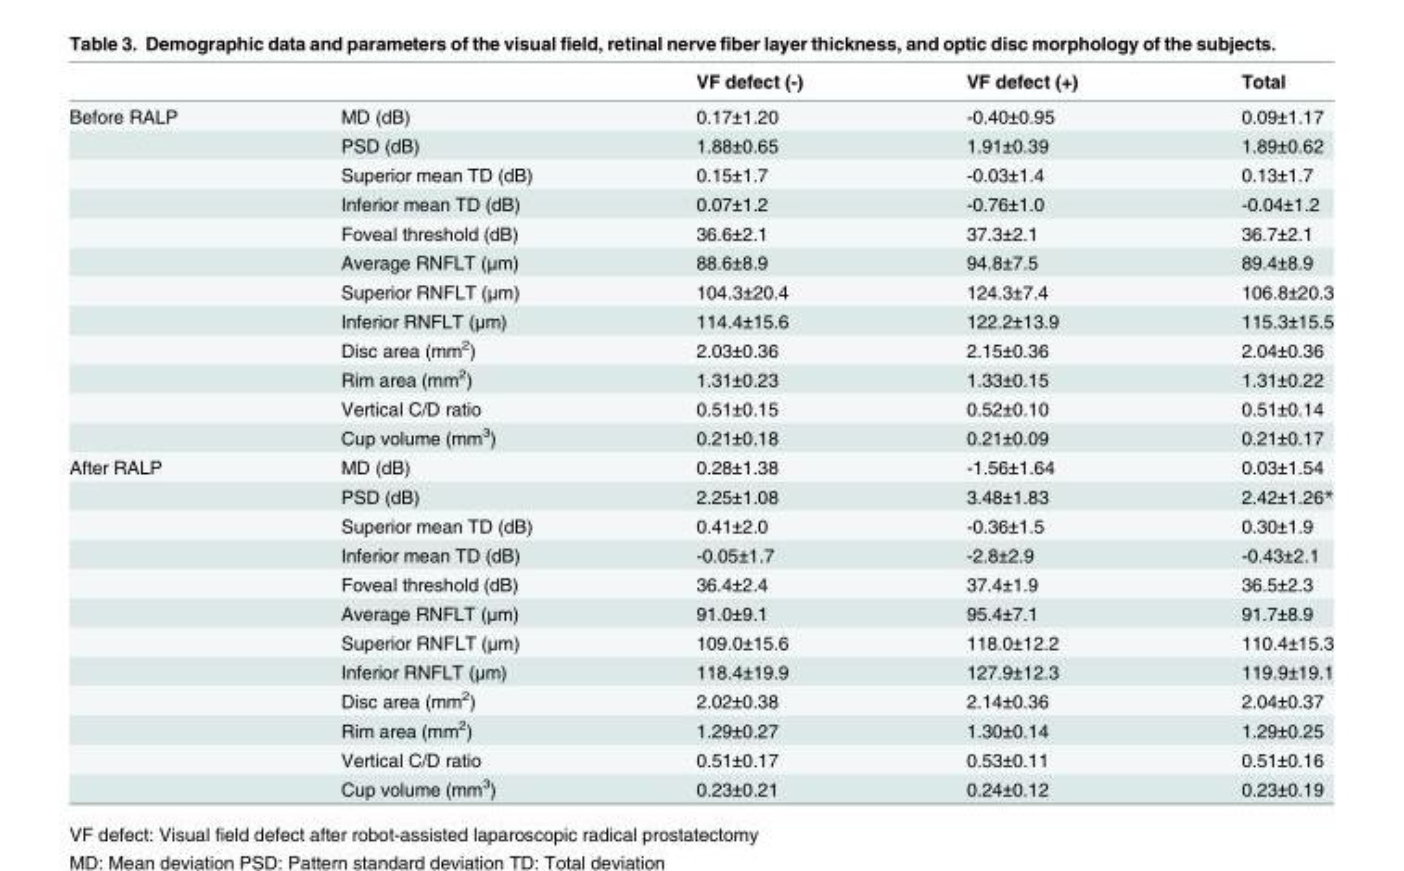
<table><thead><tr><td></td><td></td><td>VF defect (-)</td><td>VF defect (+)</td><td>Total</td></tr></thead><tbody><tr><td rowspan="12">Before RALP</td><td>MD (dB)</td><td>0.17±1.20</td><td>-0.40±0.95</td><td>0.09±1.17</td></tr><tr><td>PSD (dB)</td><td>1.88±0.65</td><td>1.91±0.39</td><td>1.89±0.62</td></tr><tr><td>Superior mean TD (dB)</td><td>0.15±1.7</td><td>-0.03±1.4</td><td>0.13±1.7</td></tr><tr><td>Inferior mean TD (dB)</td><td>0.07±1.2</td><td>-0.76±1.0</td><td>-0.04±1.2</td></tr><tr><td>Foveal threshold (dB)</td><td>36.6±2.1</td><td>37.3±2.1</td><td>36.7±2.1</td></tr><tr><td>Average RNFLT (μm)</td><td>88.6±8.9</td><td>94.8±7.5</td><td>89.4±8.9</td></tr><tr><td>Superior RNFLT (μm)</td><td>104.3±20.4</td><td>124.3±7.4</td><td>106.8±20.3</td></tr><tr><td>Inferior RNFLT (μm)</td><td>114.4±15.6</td><td>122.2±13.9</td><td>115.3±15.5</td></tr><tr><td>Disc area (mm<sup>2</sup>)</td><td>2.03±0.36</td><td>2.15±0.36</td><td>2.04±0.36</td></tr><tr><td>Rim area (mm<sup>2</sup>)</td><td>1.31±0.23</td><td>1.33±0.15</td><td>1.31±0.22</td></tr><tr><td>Vertical C/D ratio</td><td>0.51±0.15</td><td>0.52±0.10</td><td>0.51±0.14</td></tr><tr><td>Cup volume (mm<sup>3</sup>)</td><td>0.21±0.18</td><td>0.21±0.09</td><td>0.21±0.17</td></tr><tr><td rowspan="12">After RALP</td><td>MD (dB)</td><td>0.28±1.38</td><td>-1.56±1.64</td><td>0.03±1.54</td></tr><tr><td>PSD (dB)</td><td>2.25±1.08</td><td>3.48±1.83</td><td>2.42±1.26*</td></tr><tr><td>Superior mean TD (dB)</td><td>0.41±2.0</td><td>-0.36±1.5</td><td>0.30±1.9</td></tr><tr><td>Inferior mean TD (dB)</td><td>-0.05±1.7</td><td>-2.8±2.9</td><td>-0.43±2.1</td></tr><tr><td>Foveal threshold (dB)</td><td>36.4±2.4</td><td>37.4±1.9</td><td>36.5±2.3</td></tr><tr><td>Average RNFLT (μm)</td><td>91.0±9.1</td><td>95.4±7.1</td><td>91.7±8.9</td></tr><tr><td>Superior RNFLT (μm)</td><td>109.0±15.6</td><td>118.0±12.2</td><td>110.4±15.3</td></tr><tr><td>Inferior RNFLT (μm)</td><td>118.4±19.9</td><td>127.9±12.3</td><td>119.9±19.1</td></tr><tr><td>Disc area (mm<sup>2</sup>)</td><td>2.02±0.38</td><td>2.14±0.36</td><td>2.04±0.37</td></tr><tr><td>Rim area (mm<sup>2</sup>)</td><td>1.29±0.27</td><td>1.30±0.14</td><td>1.29±0.25</td></tr><tr><td>Vertical C/D ratio</td><td>0.51±0.17</td><td>0.53±0.11</td><td>0.51±0.16</td></tr><tr><td>Cup volume (mm<sup>3</sup>)</td><td>0.23±0.21</td><td>0.24±0.12</td><td>0.23±0.19</td></tr></tbody></table>